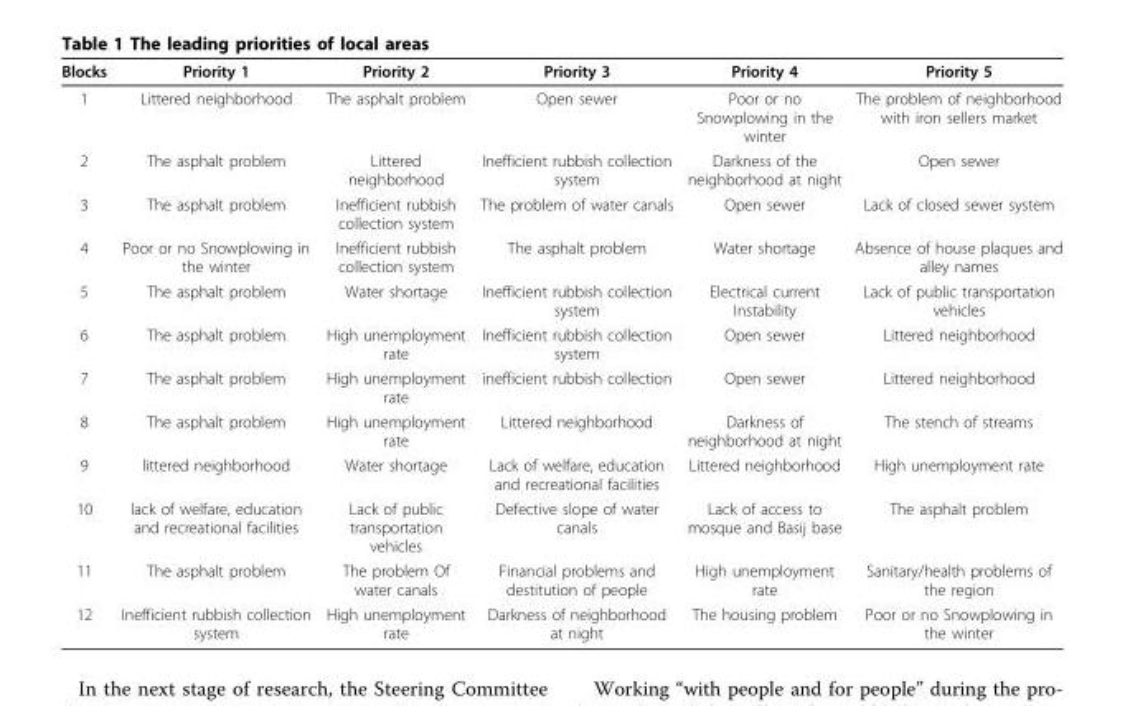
<table><thead><tr><td>Blocks</td><td>Priority 1</td><td>Priority 2</td><td>Priority 3</td><td>Priority 4</td><td>Priority 5</td></tr></thead><tbody><tr><td>1</td><td>Littered neighborhood</td><td>The asphalt problem</td><td>Open sewer</td><td>Poor or no Snowplowing in the winter</td><td>The problem of neighborhood with iron sellers market</td></tr><tr><td>2</td><td>The asphalt problem</td><td>Littered neighborhood</td><td>Inefficient rubbish collection system</td><td>Darkness of the neighborhood at night</td><td>Open sewer</td></tr><tr><td>3</td><td>The asphalt problem</td><td>Inefficient rubbish collection system</td><td>The problem of water canals</td><td>Open sewer</td><td>Lack of closed sewer system</td></tr><tr><td>4</td><td>Poor or no Snowplowing in the winter</td><td>Inefficient rubbish collection system</td><td>The asphalt problem</td><td>Water shortage</td><td>Absence of house plaques and alley names</td></tr><tr><td>5</td><td>The asphalt problem</td><td>Water shortage</td><td>Inefficient rubbish collection system</td><td>Electrical current Instability</td><td>Lack of public transportation vehicles</td></tr><tr><td>6</td><td>The asphalt problem</td><td>High unemployment rate</td><td>Inefficient rubbish collection system</td><td>Open sewer</td><td>Littered neighborhood</td></tr><tr><td>7</td><td>The asphalt problem</td><td>High unemployment rate</td><td>inefficient rubbish collection</td><td>Open sewer</td><td>Littered neighborhood</td></tr><tr><td>8</td><td>The asphalt problem</td><td>High unemployment rate</td><td>Littered neighborhood</td><td>Darkness of neighborhood at night</td><td>The stench of streams</td></tr><tr><td>9</td><td>littered neighborhood</td><td>Water shortage</td><td>Lack of welfare, education and recreational facilities</td><td>Littered neighborhood</td><td>High unemployment rate</td></tr><tr><td>10</td><td>lack of welfare, education and recreational facilities</td><td>Lack of public transportation vehicles</td><td>Defective slope of water canals</td><td>Lack of access to mosque and Basij base</td><td>The asphalt problem</td></tr><tr><td>11</td><td>The asphalt problem</td><td>The problem Of water canals</td><td>Financial problems and destitution of people</td><td>High unemployment rate</td><td>Sanitary/health problems of the region</td></tr><tr><td>12</td><td>Inefficient rubbish collection system</td><td>High unemployment rate</td><td>Darkness of neighborhood at night</td><td>The housing problem</td><td>Poor or no Snowplowing in the winter</td></tr></tbody></table>